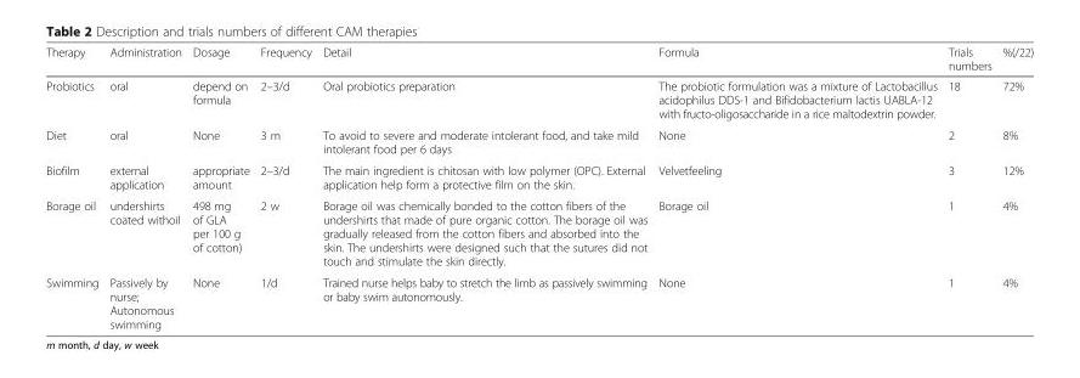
<table><thead><tr><td>Therapy</td><td>Administration</td><td>Dosage</td><td>Frequency</td><td>Detail</td><td>Formula</td><td>Trials numbers</td><td>%(/22)</td></tr></thead><tbody><tr><td>Probiotics</td><td>oral</td><td>depend on formula</td><td>2–3/d</td><td>Oral probiotics preparation</td><td>The probiotic formulation was a mixture of Lactobacillus acidophilus DDS-1 and Bifidobacterium lactis UABLA-12 with fructo-oligosaccharide in a rice maltodextrin powder.</td><td>18</td><td>72%</td></tr><tr><td>Diet</td><td>oral</td><td>None</td><td>3 m</td><td>To avoid to severe and moderate intolerant food, and take mild intolerant food per 6 days</td><td>None</td><td>2</td><td>8%</td></tr><tr><td>Biofilm</td><td>external application</td><td>appropriate amount</td><td>2–3/d</td><td>The main ingredient is chitosan with low polymer (OPC). External application help form a protective film on the skin.</td><td>Velvetfeeling</td><td>3</td><td>12%</td></tr><tr><td>Borage oil</td><td>undershirts coated withoil</td><td>498 mg of GLA per 100 g of cotton)</td><td>2 w</td><td>Borage oil was chemically bonded to the cotton fibers of the undershirts that made of pure organic cotton. The borage oil was gradually released from the cotton fibers and absorbed into the skin. The undershirts were designed such that the sutures did not touch and stimulate the skin directly.</td><td>Borage oil</td><td>1</td><td>4%</td></tr><tr><td>Swimming</td><td>Passively by nurse; Autonomous swimming</td><td>None</td><td>1/d</td><td>Trained nurse helps baby to stretch the limb as passively swimming or baby swim autonomously.</td><td>None</td><td>1</td><td>4%</td></tr></tbody></table>